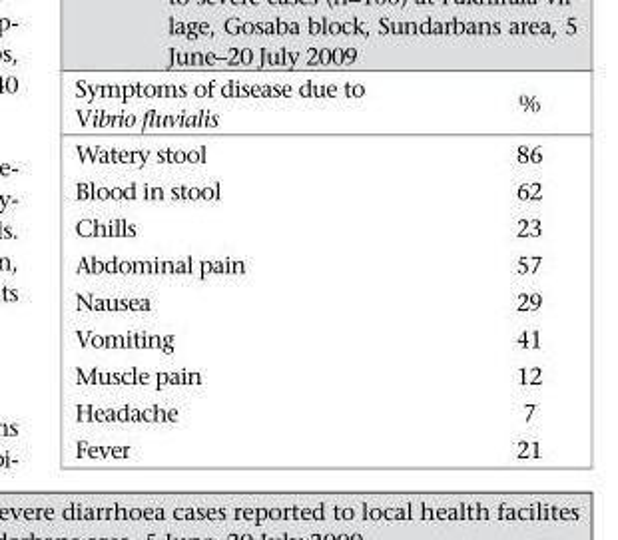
<table><thead><tr><td>Symptoms of disease due to Vibrio fluvialis</td><td>%</td></tr></thead><tbody><tr><td>Watery stool</td><td>86</td></tr><tr><td>Blood in stool</td><td>62</td></tr><tr><td>Chills</td><td>23</td></tr><tr><td>Abdominal pain</td><td>57</td></tr><tr><td>Nausea</td><td>29</td></tr><tr><td>Vomiting</td><td>41</td></tr><tr><td>Muscle pain</td><td>12</td></tr><tr><td>Headache</td><td>7</td></tr><tr><td>Fever</td><td>21</td></tr></tbody></table>